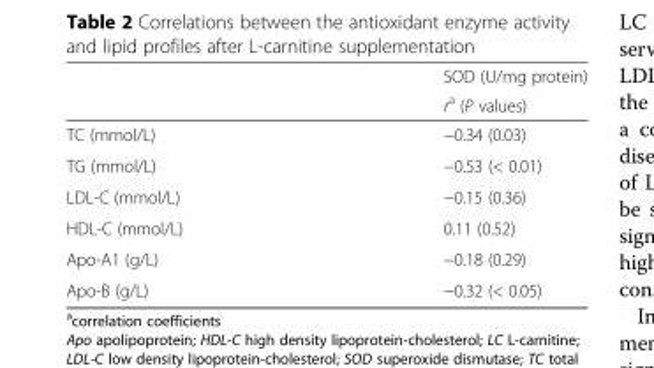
<table><thead><tr><td rowspan="2"></td><td rowspan="2">SOD (U/mg protein) r<sup>a</sup> (P values)</td></tr><tr></tr></thead><tbody><tr><td>TC (mmol/L)</td><td>−0.34 (0.03)</td></tr><tr><td>TG (mmol/L)</td><td>−0.53 (&lt; 0.01)</td></tr><tr><td>LDL-C (mmol/L)</td><td>−0.15 (0.36)</td></tr><tr><td>HDL-C (mmol/L)</td><td>0.11 (0.52)</td></tr><tr><td>Apo-A1 (g/L)</td><td>−0.18 (0.29)</td></tr><tr><td>Apo-B (g/L)</td><td>−0.32 (&lt; 0.05)</td></tr></tbody></table>